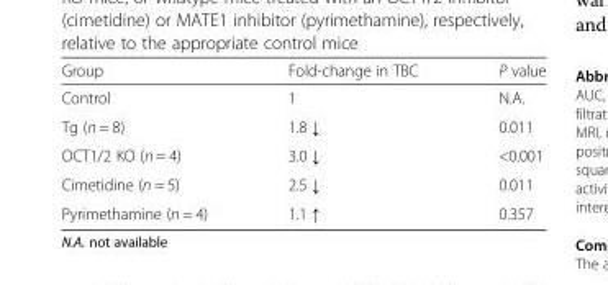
<table><thead><tr><td>Group</td><td>Fold-change in TBC</td><td>P value</td></tr></thead><tbody><tr><td>Control</td><td>1</td><td>N.A.</td></tr><tr><td>Tg (n = 8)</td><td>1.8 ↓</td><td>0.011</td></tr><tr><td>OCT1/2 KO (n = 4)</td><td>3.0 ↓</td><td>&lt;0.001</td></tr><tr><td>Cimetidine (n = 5)</td><td>2.5 ↓</td><td>0.011</td></tr><tr><td>Pyrimethamine (n = 4)</td><td>1.1 ↑</td><td>0.357</td></tr></tbody></table>